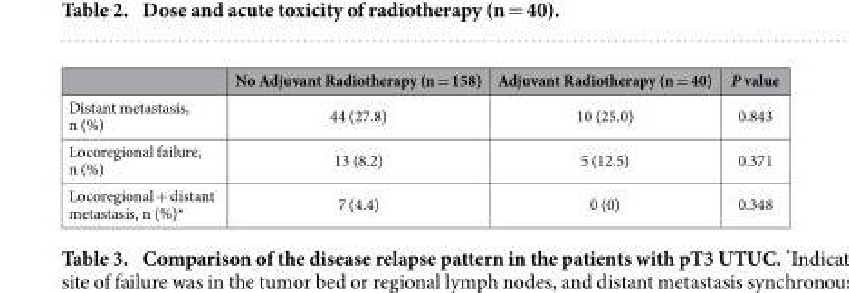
<table><thead><tr><td></td><td>No Adjuvant Radiotherapy (n = 158)</td><td>Adjuvant Radiotherapy (n = 40)</td><td>P value</td></tr></thead><tbody><tr><td>Distant metastasis, n (%)</td><td>44 (27.8)</td><td>10 (25.0)</td><td>0.843</td></tr><tr><td>Locoregional failure, n (%)</td><td>13 (8.2)</td><td>5 (12.5)</td><td>0.371</td></tr><tr><td>Locoregional + distant metastasis, n (%)*</td><td>7 (4.4)</td><td>0 (0)</td><td>0.348</td></tr></tbody></table>